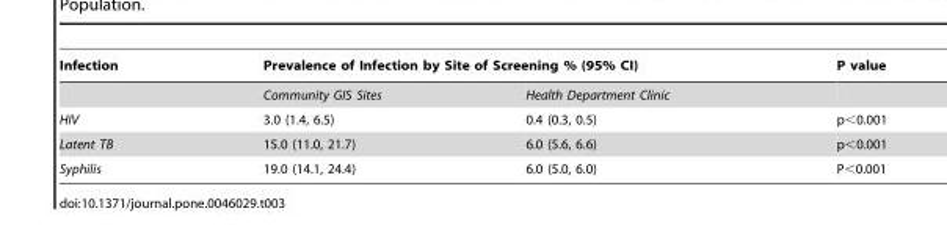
<table><thead><tr><td rowspan="2">Infection</td><td colspan="2">Prevalence of Infection by Site of Screening % (95% CI)</td><td rowspan="2">P value</td></tr><tr><td>Community GIS Sites</td><td>Health Department Clinic</td></tr></thead><tbody><tr><td>HIV</td><td>3.0 (1.4, 6.5)</td><td>0.4 (0.3, 0.5)</td><td>p&lt;0.001</td></tr><tr><td>Latent TB</td><td>15.0 (11.0, 21.7)</td><td>6.0 (5.6, 6.6)</td><td>p&lt;0.001</td></tr><tr><td>Syphilis</td><td>19.0 (14.1, 24.4)</td><td>6.0 (5.0, 6.0)</td><td>P&lt;0.001</td></tr></tbody></table>